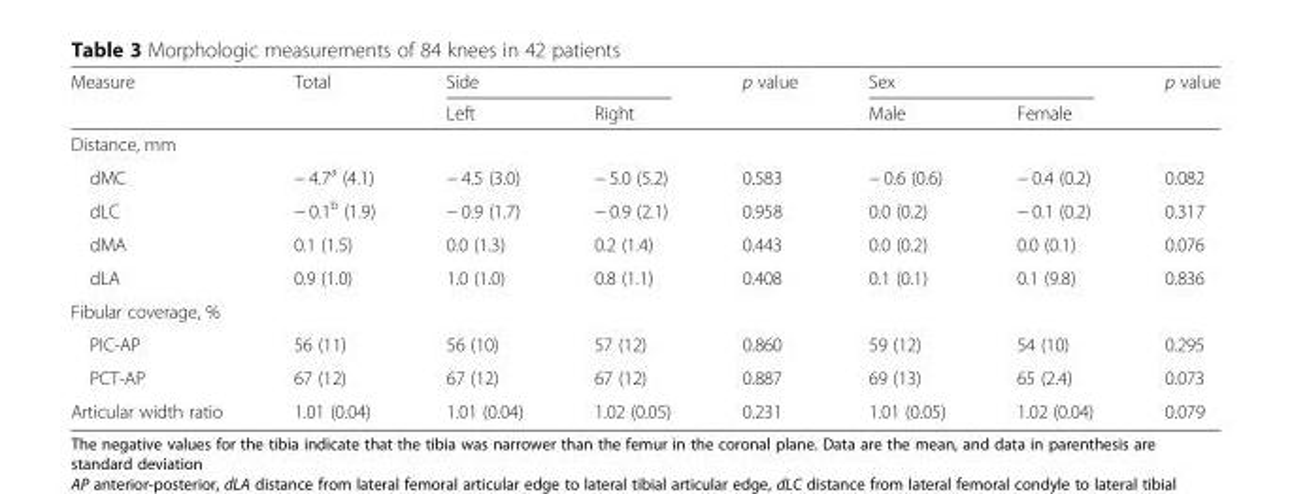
<table><thead><tr><td rowspan="2">Measure</td><td rowspan="2">Total</td><td colspan="2">Side</td><td rowspan="2">p value</td><td colspan="2">Sex</td><td rowspan="2">p value</td></tr><tr><td>Left</td><td>Right</td><td>Male</td><td>Female</td></tr></thead><tbody><tr><td colspan="8">Distance, mm</td></tr><tr><td>dMC</td><td>− 4.7<sup>a</sup> (4.1)</td><td>− 4.5 (3.0)</td><td>− 5.0 (5.2)</td><td>0.583</td><td>− 0.6 (0.6)</td><td>− 0.4 (0.2)</td><td>0.082</td></tr><tr><td>dLC</td><td>− 0.1<sup>b</sup> (1.9)</td><td>− 0.9 (1.7)</td><td>− 0.9 (2.1)</td><td>0.958</td><td>0.0 (0.2)</td><td>− 0.1 (0.2)</td><td>0.317</td></tr><tr><td>dMA</td><td>0.1 (1.5)</td><td>0.0 (1.3)</td><td>0.2 (1.4)</td><td>0.443</td><td>0.0 (0.2)</td><td>0.0 (0.1)</td><td>0.076</td></tr><tr><td>dLA</td><td>0.9 (1.0)</td><td>1.0 (1.0)</td><td>0.8 (1.1)</td><td>0.408</td><td>0.1 (0.1)</td><td>0.1 (9.8)</td><td>0.836</td></tr><tr><td colspan="8">Fibular coverage, %</td></tr><tr><td>PIC-AP</td><td>56 (11)</td><td>56 (10)</td><td>57 (12)</td><td>0.860</td><td>59 (12)</td><td>54 (10)</td><td>0.295</td></tr><tr><td>PCT-AP</td><td>67 (12)</td><td>67 (12)</td><td>67 (12)</td><td>0.887</td><td>69 (13)</td><td>65 (2.4)</td><td>0.073</td></tr><tr><td>Articular width ratio</td><td>1.01 (0.04)</td><td>1.01 (0.04)</td><td>1.02 (0.05)</td><td>0.231</td><td>1.01 (0.05)</td><td>1.02 (0.04)</td><td>0.079</td></tr></tbody></table>